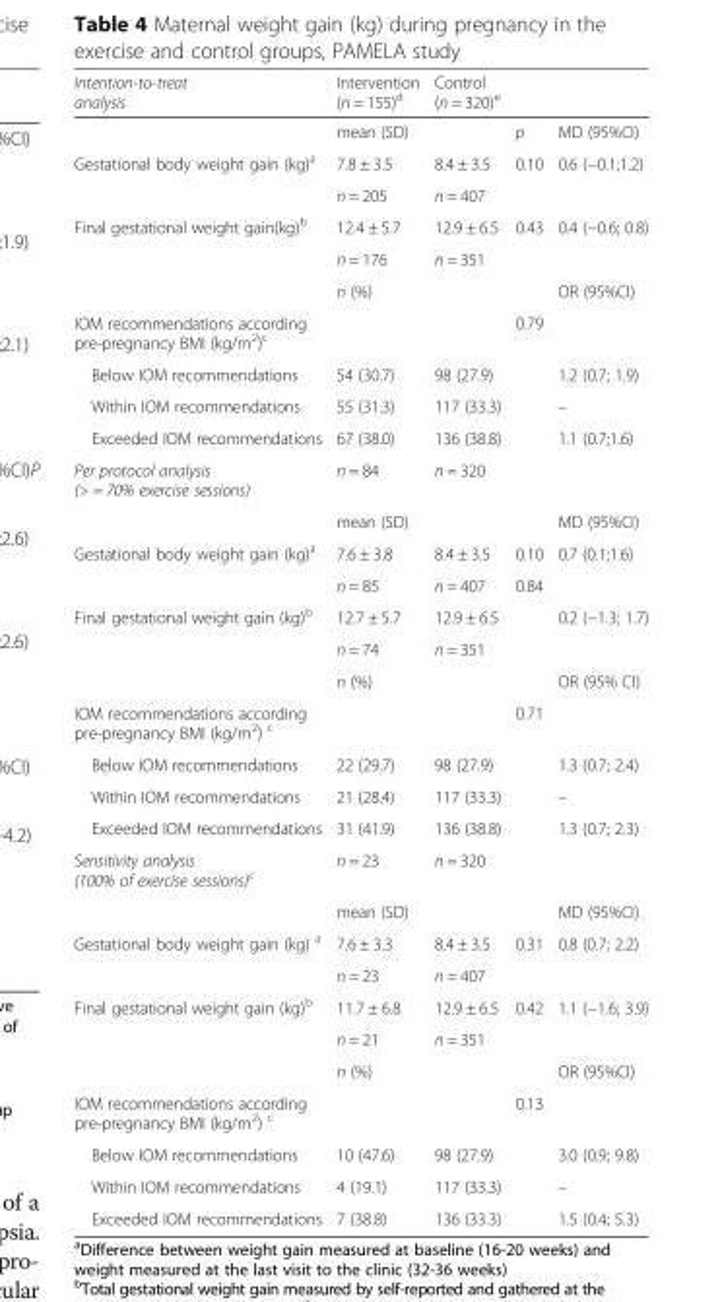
<table><thead><tr><td>Intention-to-treat analysis</td><td>Intervention (n = 155)<sup>d</sup></td><td>Control (n = 320)<sup>e</sup></td><td></td><td></td></tr></thead><tbody><tr><td></td><td colspan="2">mean (SD)</td><td>p</td><td>MD (95%CI)</td></tr><tr><td rowspan="2">Gestational body weight gain (kg)<sup>a</sup></td><td>7.8 ± 3.5</td><td>8.4 ± 3.5</td><td>0.10</td><td>0.6 (−0.1;1.2)</td></tr><tr><td>n = 205</td><td>n = 407</td><td></td><td></td></tr><tr><td rowspan="3">Final gestational weight gain(kg)<sup>b</sup></td><td>12.4 ± 5.7</td><td>12.9 ± 6.5</td><td>0.43</td><td>0.4 (−0.6; 0.8)</td></tr><tr><td>n = 176</td><td>n = 351</td><td></td><td></td></tr><tr><td colspan="2">n (%)</td><td></td><td>OR (95%CI)</td></tr><tr><td>IOM recommendations according pre-pregnancy BMI (kg/m<sup>2</sup>)<sup>c</sup></td><td></td><td></td><td>0.79</td><td></td></tr><tr><td>Below IOM recommendations</td><td>54 (30.7)</td><td>98 (27.9)</td><td></td><td>1.2 (0.7; 1.9)</td></tr><tr><td>Within IOM recommendations</td><td>55 (31.3)</td><td>117 (33.3)</td><td></td><td>–</td></tr><tr><td>Exceeded IOM recommendations</td><td>67 (38.0)</td><td>136 (38.8)</td><td></td><td>1.1 (0.7;1.6)</td></tr><tr><td rowspan="2">Per protocol analysis (&gt; = 70% exercise sessions)</td><td>n = 84</td><td>n = 320</td><td></td><td></td></tr><tr><td colspan="2">mean (SD)</td><td></td><td>MD (95%CI)</td></tr><tr><td rowspan="2">Gestational body weight gain (kg)<sup>a</sup></td><td>7.6 ± 3.8</td><td>8.4 ± 3.5</td><td>0.10</td><td>0.7 (0.1;1.6)</td></tr><tr><td>n = 85</td><td>n = 407</td><td>0.84</td><td></td></tr><tr><td rowspan="3">Final gestational weight gain (kg)<sup>b</sup></td><td>12.7 ± 5.7</td><td>12.9 ± 6.5</td><td></td><td>0.2 (−1.3; 1.7)</td></tr><tr><td>n = 74</td><td>n = 351</td><td></td><td></td></tr><tr><td colspan="2">n (%)</td><td></td><td>OR (95% CI)</td></tr><tr><td>IOM recommendations according pre-pregnancy BMI (kg/m<sup>2</sup>) <sup>c</sup></td><td></td><td></td><td>0.71</td><td></td></tr><tr><td>Below IOM recommendations</td><td>22 (29.7)</td><td>98 (27.9)</td><td></td><td>1.3 (0.7; 2.4)</td></tr><tr><td>Within IOM recommendations</td><td>21 (28.4)</td><td>117 (33.3)</td><td></td><td>–</td></tr><tr><td>Exceeded IOM recommendations</td><td>31 (41.9)</td><td>136 (38.8)</td><td></td><td>1.3 (0.7; 2.3)</td></tr><tr><td rowspan="2">Sensitivity analysis (100% of exercise sessions)<sup>c</sup></td><td>n = 23</td><td>n = 320</td><td></td><td></td></tr><tr><td colspan="2">mean (SD)</td><td></td><td>MD (95%CI)</td></tr><tr><td rowspan="2">Gestational body weight gain (kg) <sup>a</sup></td><td>7.6 ± 3.3</td><td>8.4 ± 3.5</td><td>0.31</td><td>0.8 (0.7; 2.2)</td></tr><tr><td>n = 23</td><td>n = 407</td><td></td><td></td></tr><tr><td rowspan="3">Final gestational weight gain (kg)<sup>b</sup></td><td>11.7 ± 6.8</td><td>12.9 ± 6.5</td><td>0.42</td><td>1.1 (−1.6; 3.9)</td></tr><tr><td>n = 21</td><td>n = 351</td><td></td><td></td></tr><tr><td colspan="2">n (%)</td><td></td><td>OR (95%CI)</td></tr><tr><td>IOM recommendations according pre-pregnancy BMI (kg/m<sup>2</sup>) <sup>c</sup></td><td></td><td></td><td>0.13</td><td></td></tr><tr><td>Below IOM recommendations</td><td>10 (47.6)</td><td>98 (27.9)</td><td></td><td>3.0 (0.9; 9.8)</td></tr><tr><td>Within IOM recommendations</td><td>4 (19.1)</td><td>117 (33.3)</td><td></td><td>–</td></tr><tr><td>Exceeded IOM recommendations</td><td>7 (38.8)</td><td>136 (33.3)</td><td></td><td>1.5 (0.4; 5.3)</td></tr></tbody></table>